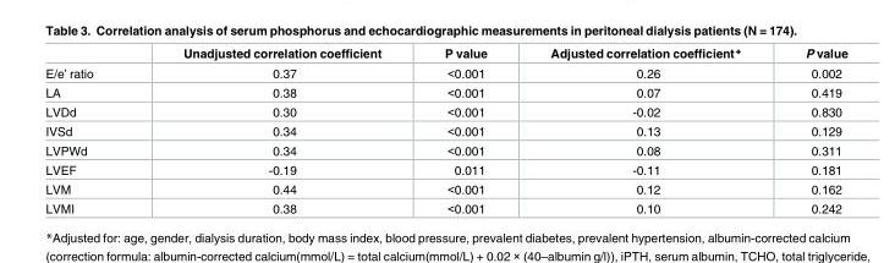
<table><thead><tr><td></td><td>Unadjusted correlation coefficient</td><td>P value</td><td>Adjusted correlation coefficient*</td><td>P value</td></tr></thead><tbody><tr><td>E/e’ ratio</td><td>0.37</td><td>&lt;0.001</td><td>0.26</td><td>0.002</td></tr><tr><td>LA</td><td>0.38</td><td>&lt;0.001</td><td>0.07</td><td>0.419</td></tr><tr><td>LVDd</td><td>0.30</td><td>&lt;0.001</td><td>-0.02</td><td>0.830</td></tr><tr><td>IVSd</td><td>0.34</td><td>&lt;0.001</td><td>0.13</td><td>0.129</td></tr><tr><td>LVPWd</td><td>0.34</td><td>&lt;0.001</td><td>0.08</td><td>0.311</td></tr><tr><td>LVEF</td><td>-0.19</td><td>0.011</td><td>-0.11</td><td>0.181</td></tr><tr><td>LVM</td><td>0.44</td><td>&lt;0.001</td><td>0.12</td><td>0.162</td></tr><tr><td>LVMI</td><td>0.38</td><td>&lt;0.001</td><td>0.10</td><td>0.242</td></tr></tbody></table>